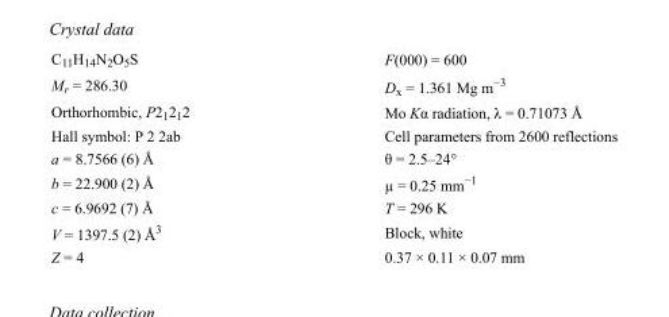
<table><tbody><tr><td>C<sub>11</sub>H<sub>14</sub>N<sub>2</sub>O<sub>5</sub>S</td><td>F(000) = 600</td></tr><tr><td>M<sub>r</sub> = 286.30</td><td>D<sub>x</sub> = 1.361 Mg m<sup>−3</sup></td></tr><tr><td>Orthorhombic, P2<sub>1</sub>2<sub>1</sub>2</td><td>Mo Kα radiation, λ = 0.71073 Å</td></tr><tr><td>Hall symbol: P 2 2ab</td><td>Cell parameters from 2600 reflections</td></tr><tr><td>a = 8.7566 (6) Å</td><td>θ = 2.5–24°</td></tr><tr><td>b = 22.900 (2) Å</td><td>µ = 0.25 mm<sup>−1</sup></td></tr><tr><td>c = 6.9692 (7) Å</td><td>T = 296 K</td></tr><tr><td>V = 1397.5 (2) Å<sup>3</sup></td><td>Block, white</td></tr><tr><td>Z = 4</td><td>0.37 × 0.11 × 0.07 mm</td></tr></tbody></table>